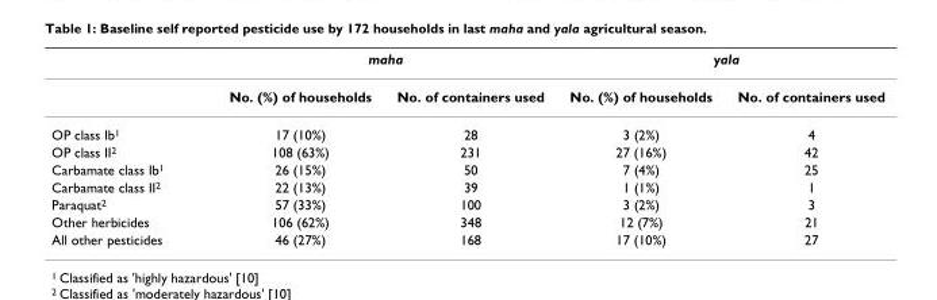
<table><thead><tr><td rowspan="2"></td><td colspan="2">maha</td><td colspan="2">yala</td></tr><tr><td>No. (%) of households</td><td>No. of containers used</td><td>No. (%) of households</td><td>No. of containers used</td></tr></thead><tbody><tr><td>OP class Ib<sup>1</sup></td><td>17 (10%)</td><td>28</td><td>3 (2%)</td><td>4</td></tr><tr><td>OP class II<sup>2</sup></td><td>108 (63%)</td><td>231</td><td>27 (16%)</td><td>42</td></tr><tr><td>Carbamate class Ib<sup>1</sup></td><td>26 (15%)</td><td>50</td><td>7 (4%)</td><td>25</td></tr><tr><td>Carbamate class II<sup>2</sup></td><td>22 (13%)</td><td>39</td><td>1 (1%)</td><td>1</td></tr><tr><td>Paraquat<sup>2</sup></td><td>57 (33%)</td><td>100</td><td>3 (2%)</td><td>3</td></tr><tr><td>Other herbicides</td><td>106 (62%)</td><td>348</td><td>12 (7%)</td><td>21</td></tr><tr><td>All other pesticides</td><td>46 (27%)</td><td>168</td><td>17 (10%)</td><td>27</td></tr></tbody></table>